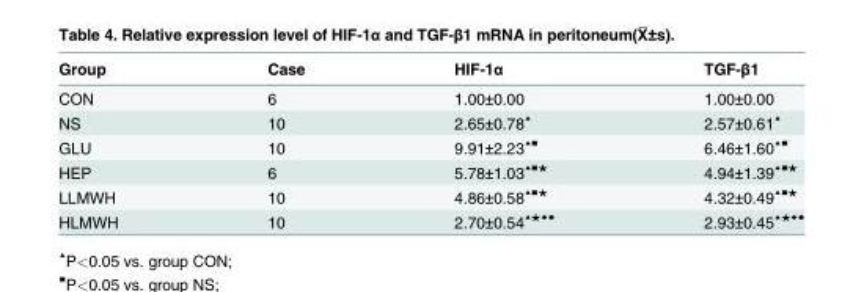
<table><thead><tr><td>Group</td><td>Case</td><td>HIF-1α</td><td>TGF-β1</td></tr></thead><tbody><tr><td>CON</td><td>6</td><td>1.00±0.00</td><td>1.00±0.00</td></tr><tr><td>NS</td><td>10</td><td>2.65±0.78<sup>▲</sup></td><td>2.57±0.61<sup>▲</sup></td></tr><tr><td>GLU</td><td>10</td><td>9.91±2.23<sup>▲■</sup></td><td>6.46±1.60<sup>▲■</sup></td></tr><tr><td>HEP</td><td>6</td><td>5.78±1.03<sup>▲■★</sup></td><td>4.94±1.39<sup>▲■★</sup></td></tr><tr><td>LLMWH</td><td>10</td><td>4.86±0.58<sup>▲■★</sup></td><td>4.32±0.49<sup>▲■★</sup></td></tr><tr><td>HLMWH</td><td>10</td><td>2.70±0.54<sup>▲★◆●</sup></td><td>2.93±0.45<sup>▲★◆●</sup></td></tr></tbody></table>